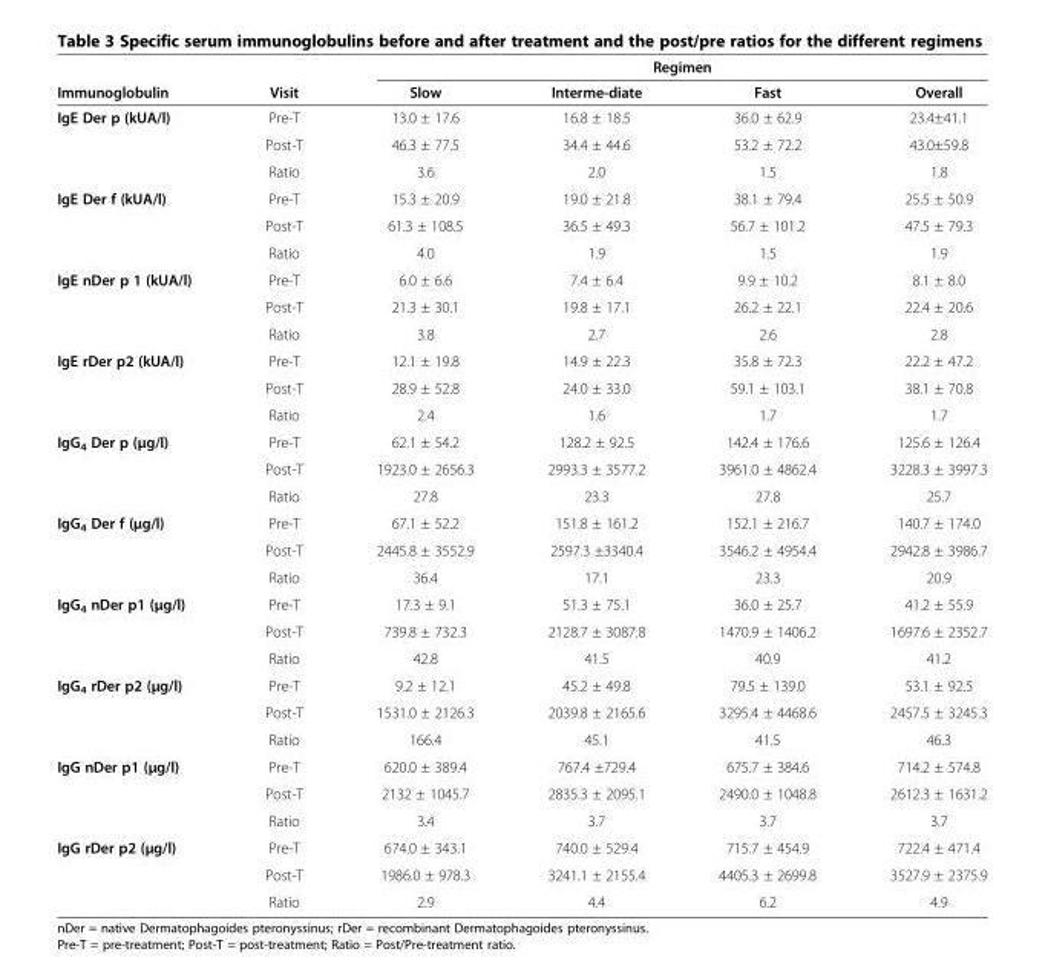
<table><thead><tr><td rowspan="2">Immunoglobulin</td><td rowspan="2">Visit</td><td colspan="4">Regimen</td></tr><tr><td>Slow</td><td>Interme-diate</td><td>Fast</td><td>Overall</td></tr></thead><tbody><tr><td rowspan="3">IgE Der p (kUA/l)</td><td>Pre-T</td><td>13.0 ± 17.6</td><td>16.8 ± 18.5</td><td>36.0 ± 62.9</td><td>23.4±41.1</td></tr><tr><td>Post-T</td><td>46.3 ± 77.5</td><td>34.4 ± 44.6</td><td>53.2 ± 72.2</td><td>43.0±59.8</td></tr><tr><td>Ratio</td><td>3.6</td><td>2.0</td><td>1.5</td><td>1.8</td></tr><tr><td rowspan="3">IgE Der f (kUA/l)</td><td>Pre-T</td><td>15.3 ± 20.9</td><td>19.0 ± 21.8</td><td>38.1 ± 79.4</td><td>25.5 ± 50.9</td></tr><tr><td>Post-T</td><td>61.3 ± 108.5</td><td>36.5 ± 49.3</td><td>56.7 ± 101.2</td><td>47.5 ± 79.3</td></tr><tr><td>Ratio</td><td>4.0</td><td>1.9</td><td>1.5</td><td>1.9</td></tr><tr><td rowspan="3">IgE nDer p 1 (kUA/l)</td><td>Pre-T</td><td>6.0 ± 6.6</td><td>7.4 ± 6.4</td><td>9.9 ± 10.2</td><td>8.1 ± 8.0</td></tr><tr><td>Post-T</td><td>21.3 ± 30.1</td><td>19.8 ± 17.1</td><td>26.2 ± 22.1</td><td>22.4 ± 20.6</td></tr><tr><td>Ratio</td><td>3.8</td><td>2.7</td><td>2.6</td><td>2.8</td></tr><tr><td rowspan="3">IgE rDer p2 (kUA/l)</td><td>Pre-T</td><td>12.1 ± 19.8</td><td>14.9 ± 22.3</td><td>35.8 ± 72.3</td><td>22.2 ± 47.2</td></tr><tr><td>Post-T</td><td>28.9 ± 52.8</td><td>24.0 ± 33.0</td><td>59.1 ± 103.1</td><td>38.1 ± 70.8</td></tr><tr><td>Ratio</td><td>2.4</td><td>1.6</td><td>1.7</td><td>1.7</td></tr><tr><td rowspan="3">IgG<sub>4</sub> Der p (μg/l)</td><td>Pre-T</td><td>62.1 ± 54.2</td><td>128.2 ± 92.5</td><td>142.4 ± 176.6</td><td>125.6 ± 126.4</td></tr><tr><td>Post-T</td><td>1923.0 ± 2656.3</td><td>2993.3 ± 3577.2</td><td>3961.0 ± 4862.4</td><td>3228.3 ± 3997.3</td></tr><tr><td>Ratio</td><td>27.8</td><td>23.3</td><td>27.8</td><td>25.7</td></tr><tr><td rowspan="3">IgG<sub>4</sub> Der f (μg/l)</td><td>Pre-T</td><td>67.1 ± 52.2</td><td>151.8 ± 161.2</td><td>152.1 ± 216.7</td><td>140.7 ± 174.0</td></tr><tr><td>Post-T</td><td>2445.8 ± 3552.9</td><td>2597.3 ±3340.4</td><td>3546.2 ± 4954.4</td><td>2942.8 ± 3986.7</td></tr><tr><td>Ratio</td><td>36.4</td><td>17.1</td><td>23.3</td><td>20.9</td></tr><tr><td rowspan="3">IgG<sub>4</sub> nDer p1 (μg/l)</td><td>Pre-T</td><td>17.3 ± 9.1</td><td>51.3 ± 75.1</td><td>36.0 ± 25.7</td><td>41.2 ± 55.9</td></tr><tr><td>Post-T</td><td>739.8 ± 732.3</td><td>2128.7 ± 3087.8</td><td>1470.9 ± 1406.2</td><td>1697.6 ± 2352.7</td></tr><tr><td>Ratio</td><td>42.8</td><td>41.5</td><td>40.9</td><td>41.2</td></tr><tr><td rowspan="3">IgG<sub>4</sub> rDer p2 (μg/l)</td><td>Pre-T</td><td>9.2 ± 12.1</td><td>45.2 ± 49.8</td><td>79.5 ± 139.0</td><td>53.1 ± 92.5</td></tr><tr><td>Post-T</td><td>1531.0 ± 2126.3</td><td>2039.8 ± 2165.6</td><td>3295.4 ± 4468.6</td><td>2457.5 ± 3245.3</td></tr><tr><td>Ratio</td><td>166.4</td><td>45.1</td><td>41.5</td><td>46.3</td></tr><tr><td rowspan="3">IgG nDer p1 (μg/l)</td><td>Pre-T</td><td>620.0 ± 389.4</td><td>767.4 ±729.4</td><td>675.7 ± 384.6</td><td>714.2 ± 574.8</td></tr><tr><td>Post-T</td><td>2132 ± 1045.7</td><td>2835.3 ± 2095.1</td><td>2490.0 ± 1048.8</td><td>2612.3 ± 1631.2</td></tr><tr><td>Ratio</td><td>3.4</td><td>3.7</td><td>3.7</td><td>3.7</td></tr><tr><td rowspan="3">IgG rDer p2 (μg/l)</td><td>Pre-T</td><td>674.0 ± 343.1</td><td>740.0 ± 529.4</td><td>715.7 ± 454.9</td><td>722.4 ± 471.4</td></tr><tr><td>Post-T</td><td>1986.0 ± 978.3</td><td>3241.1 ± 2155.4</td><td>4405.3 ± 2699.8</td><td>3527.9 ± 2375.9</td></tr><tr><td>Ratio</td><td>2.9</td><td>4.4</td><td>6.2</td><td>4.9</td></tr></tbody></table>